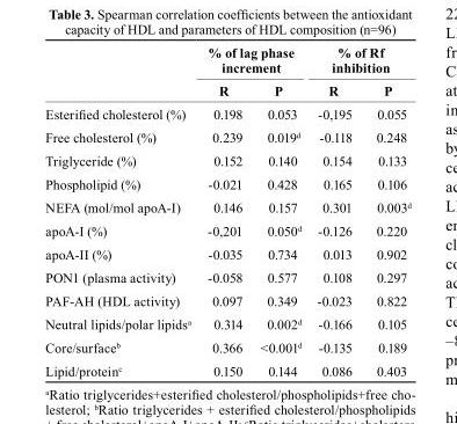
<table><thead><tr><td rowspan="2"></td><td colspan="2">% of lag phase increment</td><td colspan="2">% of rf inhibition</td></tr><tr><td>r</td><td>P</td><td>r</td><td>P</td></tr></thead><tbody><tr><td>Esterified cholesterol (%)</td><td>0.198</td><td>0.053</td><td>-0,195</td><td>0.055</td></tr><tr><td>Free cholesterol (%)</td><td>0.239</td><td>0.019<sup>d</sup></td><td>-0.118</td><td>0.248</td></tr><tr><td>Triglyceride (%)</td><td>0.152</td><td>0.140</td><td>0.154</td><td>0.133</td></tr><tr><td>Phospholipid (%)</td><td>-0.021</td><td>0.428</td><td>0.165</td><td>0.106</td></tr><tr><td>NEFA (mol/mol apoA-I)</td><td>0.146</td><td>0.157</td><td>0.301</td><td>0.003<sup>d</sup></td></tr><tr><td>apoA-I (%)</td><td>-0,201</td><td>0.050<sup>d</sup></td><td>-0.126</td><td>0.220</td></tr><tr><td>apoA-II (%)</td><td>-0.035</td><td>0.734</td><td>0.013</td><td>0.902</td></tr><tr><td>PON1 (plasma activity)</td><td>-0.058</td><td>0.577</td><td>0.108</td><td>0.297</td></tr><tr><td>PAF-AH (HDL activity)</td><td>0.097</td><td>0.349</td><td>-0.023</td><td>0.822</td></tr><tr><td>Neutral lipids/polar lipids<sup>a</sup></td><td>0.314</td><td>0.002<sup>d</sup></td><td>-0.166</td><td>0.105</td></tr><tr><td>Core/surface<sup>b</sup></td><td>0.366</td><td>&lt;0.001<sup>d</sup></td><td>-0.135</td><td>0.189</td></tr><tr><td>Lipid/protein<sup>c</sup></td><td>0.150</td><td>0.144</td><td>0.086</td><td>0.403</td></tr></tbody></table>